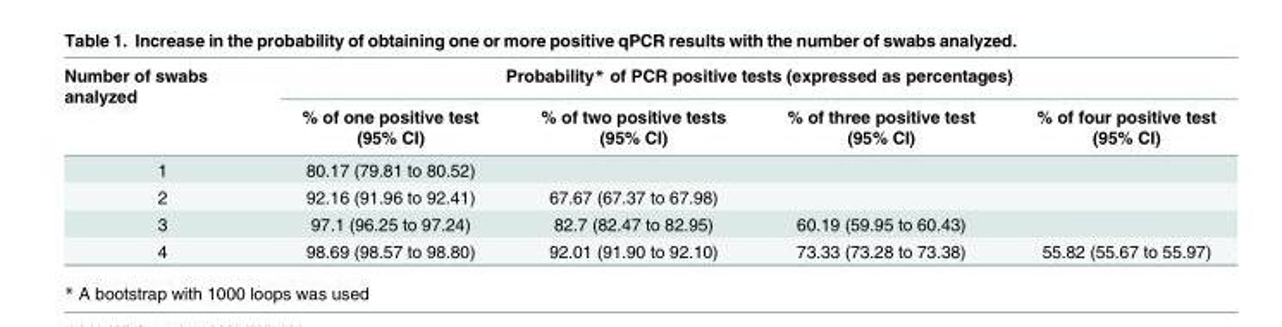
<table><thead><tr><td rowspan="2">Number of swabs analyzed</td><td colspan="4">Probability* of PCR positive tests (expressed as percentages)</td></tr><tr><td>% of one positive test (95% CI)</td><td>% of two positive tests (95% CI)</td><td>% of three positive test (95% CI)</td><td>% of four positive test (95% CI)</td></tr></thead><tbody><tr><td>1</td><td>80.17 (79.81 to 80.52)</td><td></td><td></td><td></td></tr><tr><td>2</td><td>92.16 (91.96 to 92.41)</td><td>67.67 (67.37 to 67.98)</td><td></td><td></td></tr><tr><td>3</td><td>97.1 (96.25 to 97.24)</td><td>82.7 (82.47 to 82.95)</td><td>60.19 (59.95 to 60.43)</td><td></td></tr><tr><td>4</td><td>98.69 (98.57 to 98.80)</td><td>92.01 (91.90 to 92.10)</td><td>73.33 (73.28 to 73.38)</td><td>55.82 (55.67 to 55.97)</td></tr></tbody></table>